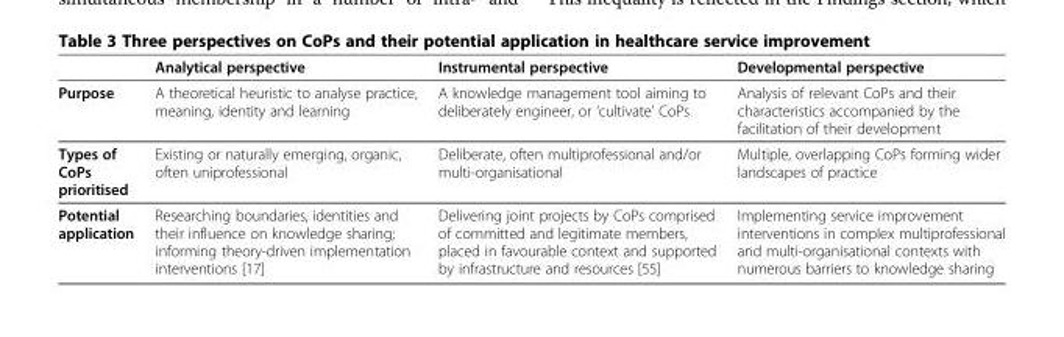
<table><thead><tr><td></td><td>Analytical perspective</td><td>Instrumental perspective</td><td>Developmental perspective</td></tr></thead><tbody><tr><td>Purpose</td><td>A theoretical heuristic to analyse practice, meaning, identity and learning</td><td>A knowledge management tool aiming to deliberately engineer, or ‘cultivate’ CoPs</td><td>Analysis of relevant CoPs and their characteristics accompanied by the facilitation of their development</td></tr><tr><td>Types of CoPs prioritised</td><td>Existing or naturally emerging, organic, often uniprofessional</td><td>Deliberate, often multiprofessional and/or multi-organisational</td><td>Multiple, overlapping CoPs forming wider landscapes of practice</td></tr><tr><td>Potential application</td><td>Researching boundaries, identities and their influence on knowledge sharing; informing theory-driven implementation interventions [17]</td><td>Delivering joint projects by CoPs comprised of committed and legitimate members, placed in favourable context and supported by infrastructure and resources [55]</td><td>Implementing service improvement interventions in complex multiprofessional and multi-organisational contexts with numerous barriers to knowledge sharing</td></tr></tbody></table>